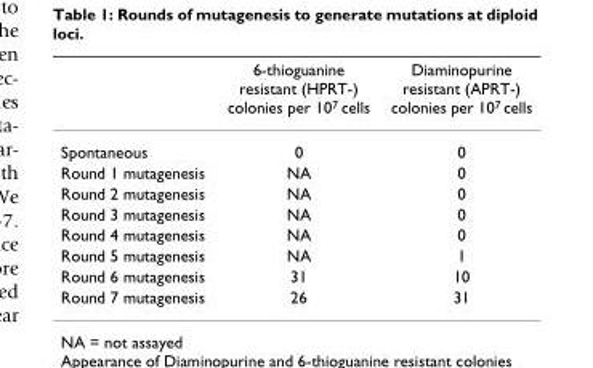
<table><thead><tr><td></td><td>6-thioguanine resistant (HPRT-) colonies per 10<sup>7</sup> cells</td><td>Diaminopurine resistant (APRT-) colonies per 10<sup>7</sup> cells</td></tr></thead><tbody><tr><td>Spontaneous</td><td>0</td><td>0</td></tr><tr><td>Round 1 mutagenesis</td><td>NA</td><td>0</td></tr><tr><td>Round 2 mutagenesis</td><td>NA</td><td>0</td></tr><tr><td>Round 3 mutagenesis</td><td>NA</td><td>0</td></tr><tr><td>Round 4 mutagenesis</td><td>NA</td><td>0</td></tr><tr><td>Round 5 mutagenesis</td><td>NA</td><td>1</td></tr><tr><td>Round 6 mutagenesis</td><td>31</td><td>10</td></tr><tr><td>Round 7 mutagenesis</td><td>26</td><td>31</td></tr></tbody></table>